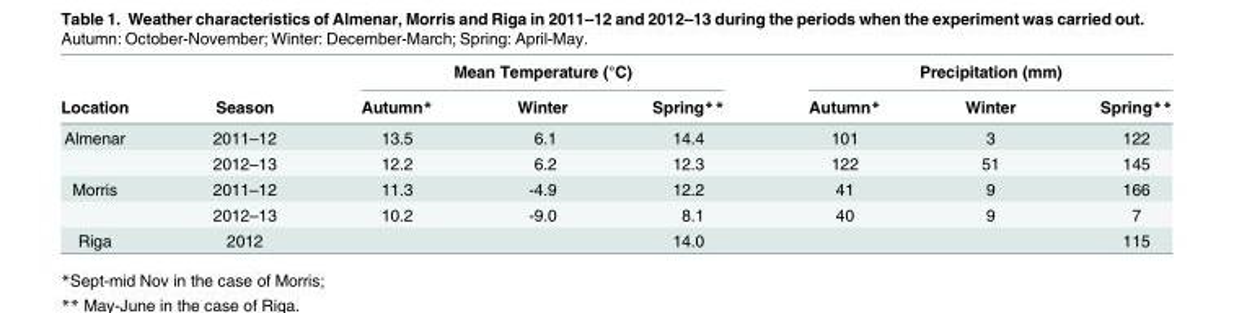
<table><thead><tr><td rowspan="2">Location</td><td rowspan="2">Season</td><td colspan="3">Mean Temperature (°C)</td><td colspan="3">Precipitation (mm)</td></tr><tr><td>Autumn*</td><td>Winter</td><td>Spring**</td><td>Autumn*</td><td>Winter</td><td>Spring**</td></tr></thead><tbody><tr><td rowspan="2">Almenar</td><td>2011–12</td><td>13.5</td><td>6.1</td><td>14.4</td><td>101</td><td>3</td><td>122</td></tr><tr><td>2012–13</td><td>12.2</td><td>6.2</td><td>12.3</td><td>122</td><td>51</td><td>145</td></tr><tr><td rowspan="2">Morris</td><td>2011–12</td><td>11.3</td><td>-4.9</td><td>12.2</td><td>41</td><td>9</td><td>166</td></tr><tr><td>2012–13</td><td>10.2</td><td>-9.0</td><td>8.1</td><td>40</td><td>9</td><td>7</td></tr><tr><td>Riga</td><td>2012</td><td></td><td></td><td>14.0</td><td></td><td></td><td>115</td></tr></tbody></table>